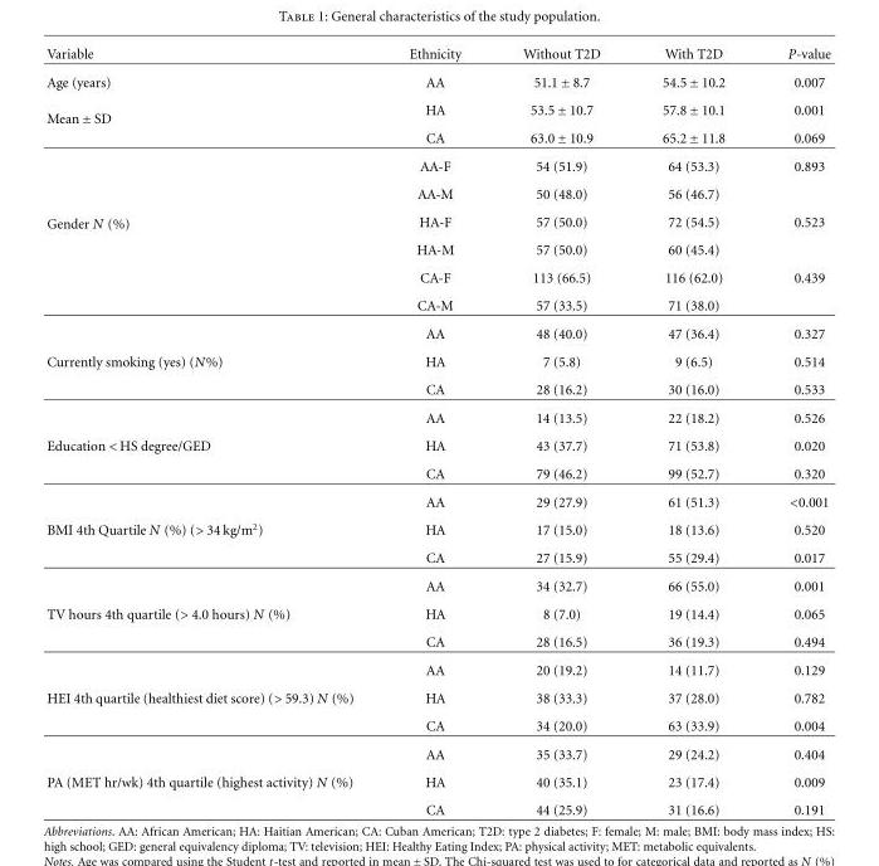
<table><thead><tr><td>Variable</td><td>Ethnicity</td><td>Without T2D</td><td>With T2D</td><td>P-value</td></tr></thead><tbody><tr><td>Age (years)</td><td>AA</td><td>51.1 ± 8.7</td><td>54.5 ± 10.2</td><td>0.007</td></tr><tr><td rowspan="2">Mean ± SD</td><td>HA</td><td>53.5 ± 10.7</td><td>57.8 ± 10.1</td><td>0.001</td></tr><tr><td>CA</td><td>63.0 ± 10.9</td><td>65.2 ± 11.8</td><td>0.069</td></tr><tr><td rowspan="7">Gender N (%)</td><td>AA-F</td><td>54 (51.9)</td><td>64 (53.3)</td><td>0.893</td></tr><tr><td>AA-M</td><td>50 (48.0)</td><td>56 (46.7)</td><td></td></tr><tr><td>HA-F</td><td>57 (50.0)</td><td>72 (54.5)</td><td>0.523</td></tr><tr><td>HA-M</td><td>57 (50.0)</td><td>60 (45.4)</td><td></td></tr><tr><td>CA-F</td><td>113 (66.5)</td><td>116 (62.0)</td><td>0.439</td></tr><tr><td>CA-M</td><td>57 (33.5)</td><td>71 (38.0)</td><td></td></tr><tr><td>AA</td><td>48 (40.0)</td><td>47 (36.4)</td><td>0.327</td></tr><tr><td rowspan="3">Currently smoking (yes) (N%)</td><td>HA</td><td>7 (5.8)</td><td>9 (6.5)</td><td>0.514</td></tr><tr><td>CA</td><td>28 (16.2)</td><td>30 (16.0)</td><td>0.533</td></tr><tr><td>AA</td><td>14 (13.5)</td><td>22 (18.2)</td><td>0.526</td></tr><tr><td rowspan="3">Education &lt; HS degree/GED</td><td>HA</td><td>43 (37.7)</td><td>71 (53.8)</td><td>0.020</td></tr><tr><td>CA</td><td>79 (46.2)</td><td>99 (52.7)</td><td>0.320</td></tr><tr><td>AA</td><td>29 (27.9)</td><td>61 (51.3)</td><td>&lt;0.001</td></tr><tr><td rowspan="3">BMI 4th Quartile N (%) (&gt; 34 kg/m<sup>2</sup>)</td><td>HA</td><td>17 (15.0)</td><td>18 (13.6)</td><td>0.520</td></tr><tr><td>CA</td><td>27 (15.9)</td><td>55 (29.4)</td><td>0.017</td></tr><tr><td>AA</td><td>34 (32.7)</td><td>66 (55.0)</td><td>0.001</td></tr><tr><td rowspan="3">TV hours 4th quartile (&gt; 4.0 hours) N (%)</td><td>HA</td><td>8 (7.0)</td><td>19 (14.4)</td><td>0.065</td></tr><tr><td>CA</td><td>28 (16.5)</td><td>36 (19.3)</td><td>0.494</td></tr><tr><td>AA</td><td>20 (19.2)</td><td>14 (11.7)</td><td>0.129</td></tr><tr><td rowspan="3">HEI 4th quartile (healthiest diet score) (&gt; 59.3) N (%)</td><td>HA</td><td>38 (33.3)</td><td>37 (28.0)</td><td>0.782</td></tr><tr><td>CA</td><td>34 (20.0)</td><td>63 (33.9)</td><td>0.004</td></tr><tr><td>AA</td><td>35 (33.7)</td><td>29 (24.2)</td><td>0.404</td></tr><tr><td rowspan="2">PA (MET hr/wk) 4th quartile (highest activity) N (%)</td><td>HA</td><td>40 (35.1)</td><td>23 (17.4)</td><td>0.009</td></tr><tr><td>CA</td><td>44 (25.9)</td><td>31 (16.6)</td><td>0.191</td></tr></tbody></table>